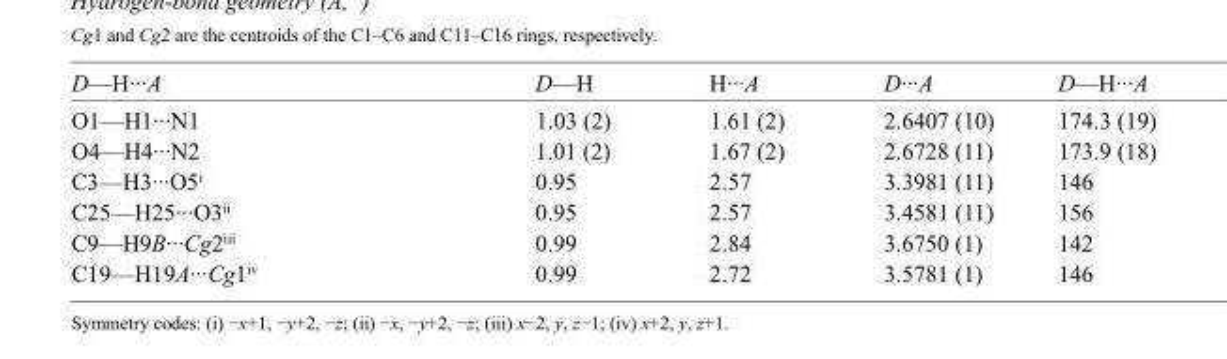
<table><tbody><tr><td>D—H···A</td><td>D—H</td><td>H···A</td><td>D···A</td><td>D—H···A</td></tr><tr><td>O1—H1···N1</td><td>1.03 (2)</td><td>1.61 (2)</td><td>2.6407 (10)</td><td>174.3 (19)</td></tr><tr><td>O4—H4···N2</td><td>1.01 (2)</td><td>1.67 (2)</td><td>2.6728 (11)</td><td>173.9 (18)</td></tr><tr><td>C3—H3···O5<sup>i</sup></td><td>0.95</td><td>2.57</td><td>3.3981 (11)</td><td>146</td></tr><tr><td>C25—H25···O3<sup>ii</sup></td><td>0.95</td><td>2.57</td><td>3.4581 (11)</td><td>156</td></tr><tr><td>C9—H9B···Cg2<sup>iii</sup></td><td>0.99</td><td>2.84</td><td>3.6750 (1)</td><td>142</td></tr><tr><td>C19—H19A···Cg1<sup>iv</sup></td><td>0.99</td><td>2.72</td><td>3.5781 (1)</td><td>146</td></tr></tbody></table>